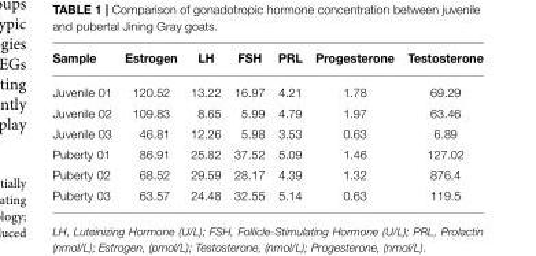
<table><thead><tr><td>Sample</td><td>Estrogen</td><td>LH</td><td>FSH</td><td>PRL</td><td>Progesterone</td><td>Testosterone</td></tr></thead><tbody><tr><td>Juvenile 01</td><td>120.52</td><td>13.22</td><td>16.97</td><td>4.21</td><td>1.78</td><td>69.29</td></tr><tr><td>Juvenile 02</td><td>109.83</td><td>8.65</td><td>5.99</td><td>4.79</td><td>1.97</td><td>63.46</td></tr><tr><td>Juvenile 03</td><td>46.81</td><td>12.26</td><td>5.98</td><td>3.53</td><td>0.63</td><td>6.89</td></tr><tr><td>Puberty 01</td><td>86.91</td><td>25.82</td><td>37.52</td><td>5.09</td><td>1.46</td><td>127.02</td></tr><tr><td>Puberty 02</td><td>68.52</td><td>29.59</td><td>28.17</td><td>4.39</td><td>1.32</td><td>876.4</td></tr><tr><td>Puberty 03</td><td>63.57</td><td>24.48</td><td>32.55</td><td>5.14</td><td>0.63</td><td>119.5</td></tr></tbody></table>